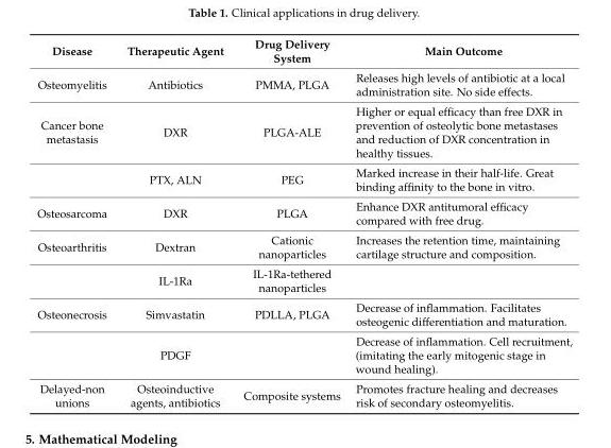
<table><thead><tr><td>Disease</td><td>Therapeutic Agent</td><td>Drug Delivery System</td><td>Main Outcome</td></tr></thead><tbody><tr><td>Osteomyelitis</td><td>Antibiotics</td><td>PMMA, PLGA</td><td>Releases high levels of antibiotic at a local administration site. No side effects.</td></tr><tr><td rowspan="2">Cancer bone metastasis</td><td>DXR</td><td>PLGA-ALE</td><td>Higher or equal efficacy than free DXR in prevention of osteolytic bone metastases and reduction of DXR concentration in healthy tissues.</td></tr><tr><td>PTX, ALN</td><td>PEG</td><td>Marked increase in their half-life. Great binding affinity to the bone in vitro.</td></tr><tr><td>Osteosarcoma</td><td>DXR</td><td>PLGA</td><td>Enhance DXR antitumoral efficacy compared with free drug.</td></tr><tr><td rowspan="2">Osteoarthritis</td><td>Dextran</td><td>Cationic nanoparticles</td><td>Increases the retention time, maintaining cartilage structure and composition.</td></tr><tr><td>IL-1Ra</td><td>IL-1Ra-tethered nanoparticles</td><td></td></tr><tr><td rowspan="2">Osteonecrosis</td><td>Simvastatin</td><td>PDLLA, PLGA</td><td>Decrease of inflammation. Facilitates osteogenic differentiation and maturation.</td></tr><tr><td>PDGF</td><td></td><td>Decrease of inflammation. Cell recruitment, (imitating the early mitogenic stage in wound healing).</td></tr><tr><td>Delayed-non unions</td><td>Osteoinductive agents, antibiotics</td><td>Composite systems</td><td>Promotes fracture healing and decreases risk of secondary osteomyelitis.</td></tr></tbody></table>